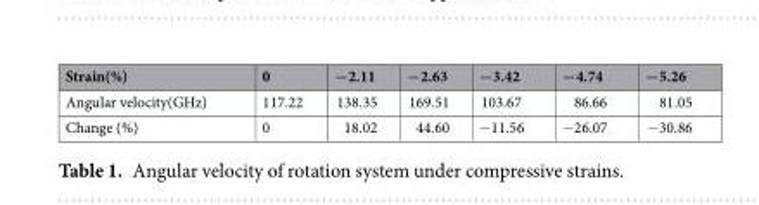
<table><thead><tr><td>Strain(%)</td><td>0</td><td>−2.11</td><td>−2.63</td><td>−3.42</td><td>−4.74</td><td>−5.26</td></tr></thead><tbody><tr><td>Angular velocity(GHz)</td><td>117.22</td><td>138.35</td><td>169.51</td><td>103.67</td><td>86.66</td><td>81.05</td></tr><tr><td>Change (%)</td><td>0</td><td>18.02</td><td>44.60</td><td>−11.56</td><td>−26.07</td><td>−30.86</td></tr></tbody></table>